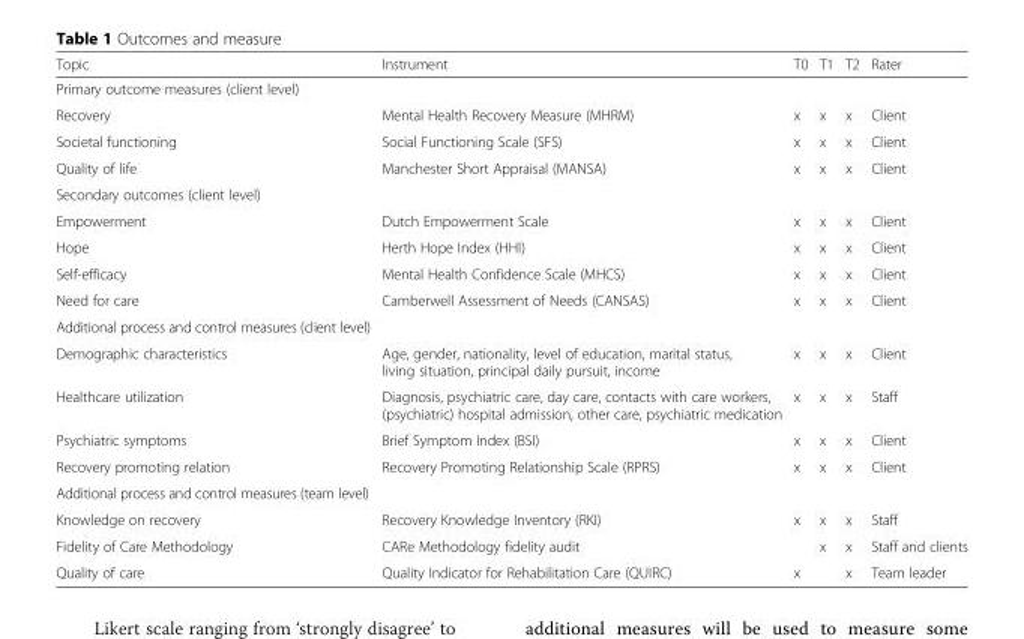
<table><thead><tr><td>Topic</td><td>Instrument</td><td>T0</td><td>T1</td><td>T2</td><td>Rater</td></tr></thead><tbody><tr><td colspan="6">Primary outcome measures (client level)</td></tr><tr><td>Recovery</td><td>Mental Health Recovery Measure (MHRM)</td><td>x</td><td>x</td><td>x</td><td>Client</td></tr><tr><td>Societal functioning</td><td>Social Functioning Scale (SFS)</td><td>x</td><td>x</td><td>x</td><td>Client</td></tr><tr><td>Quality of life</td><td>Manchester Short Appraisal (MANSA)</td><td>x</td><td>x</td><td>x</td><td>Client</td></tr><tr><td colspan="6">Secondary outcomes (client level)</td></tr><tr><td>Empowerment</td><td>Dutch Empowerment Scale</td><td>x</td><td>x</td><td>x</td><td>Client</td></tr><tr><td>Hope</td><td>Herth Hope Index (HHI)</td><td>x</td><td>x</td><td>x</td><td>Client</td></tr><tr><td>Self-efficacy</td><td>Mental Health Confidence Scale (MHCS)</td><td>x</td><td>x</td><td>x</td><td>Client</td></tr><tr><td>Need for care</td><td>Camberwell Assessment of Needs (CANSAS)</td><td>x</td><td>x</td><td>x</td><td>Client</td></tr><tr><td colspan="6">Additional process and control measures (client level)</td></tr><tr><td>Demographic characteristics</td><td>Age, gender, nationality, level of education, marital status, living situation, principal daily pursuit, income</td><td>x</td><td>x</td><td>x</td><td>Client</td></tr><tr><td>Healthcare utilization</td><td>Diagnosis, psychiatric care, day care, contacts with care workers, (psychiatric) hospital admission, other care, psychiatric medication</td><td>x</td><td>x</td><td>x</td><td>Staff</td></tr><tr><td>Psychiatric symptoms</td><td>Brief Symptom Index (BSI)</td><td>x</td><td>x</td><td>x</td><td>Client</td></tr><tr><td>Recovery promoting relation</td><td>Recovery Promoting Relationship Scale (RPRS)</td><td>x</td><td>x</td><td>x</td><td>Client</td></tr><tr><td colspan="6">Additional process and control measures (team level)</td></tr><tr><td>Knowledge on recovery</td><td>Recovery Knowledge Inventory (RKI)</td><td>x</td><td>x</td><td>x</td><td>Staff</td></tr><tr><td>Fidelity of Care Methodology</td><td>CARe Methodology fidelity audit</td><td></td><td>x</td><td>x</td><td>Staff and clients</td></tr><tr><td>Quality of care</td><td>Quality Indicator for Rehabilitation Care (QUIRC)</td><td>x</td><td></td><td>x</td><td>Team leader</td></tr></tbody></table>